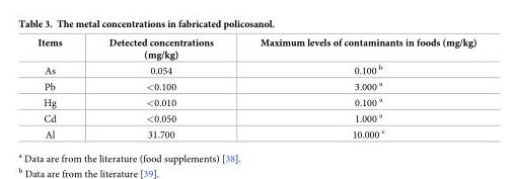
<table><thead><tr><td>Items</td><td>Detected concentrations (mg/kg)</td><td>Maximum levels of contaminants in foods (mg/kg)</td></tr></thead><tbody><tr><td>As</td><td>0.054</td><td>0.100 <sup>b</sup></td></tr><tr><td>Pb</td><td>&lt;0.100</td><td>3.000 <sup>a</sup></td></tr><tr><td>Hg</td><td>&lt;0.010</td><td>0.100 <sup>a</sup></td></tr><tr><td>Cd</td><td>&lt;0.050</td><td>1.000 <sup>a</sup></td></tr><tr><td>Al</td><td>31.700</td><td>10.000 <sup>c</sup></td></tr></tbody></table>